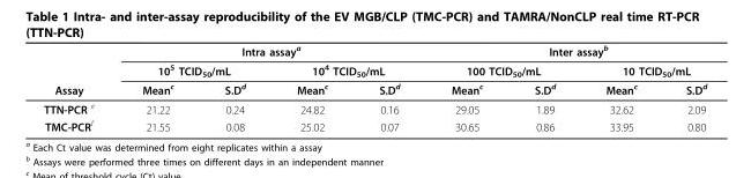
<table><thead><tr><td rowspan="3">Assay</td><td colspan="4">Intra assay<sup>a</sup></td><td colspan="4">Inter assay<sup>b</sup></td></tr><tr><td colspan="2">10<sup>5</sup> TCID<sub>50</sub>/mL</td><td colspan="2">10<sup>4</sup> TCID<sub>50</sub>/mL</td><td colspan="2">100 TCID<sub>50</sub>/mL</td><td colspan="2">10 TCID<sub>50</sub>/mL</td></tr><tr><td>Mean<sup>c</sup></td><td>S.D<sup>d</sup></td><td>Mean<sup>c</sup></td><td>S.D<sup>d</sup></td><td>Mean<sup>c</sup></td><td>S.D<sup>d</sup></td><td>Mean<sup>c</sup></td><td>S.D<sup>d</sup></td></tr></thead><tbody><tr><td>TTN-PCR <sup>e</sup></td><td>21.22</td><td>0.24</td><td>24.82</td><td>0.16</td><td>29.05</td><td>1.89</td><td>32.62</td><td>2.09</td></tr><tr><td>TMC-PCR<sup>f</sup></td><td>21.55</td><td>0.08</td><td>25.02</td><td>0.07</td><td>30.65</td><td>0.86</td><td>33.95</td><td>0.80</td></tr></tbody></table>